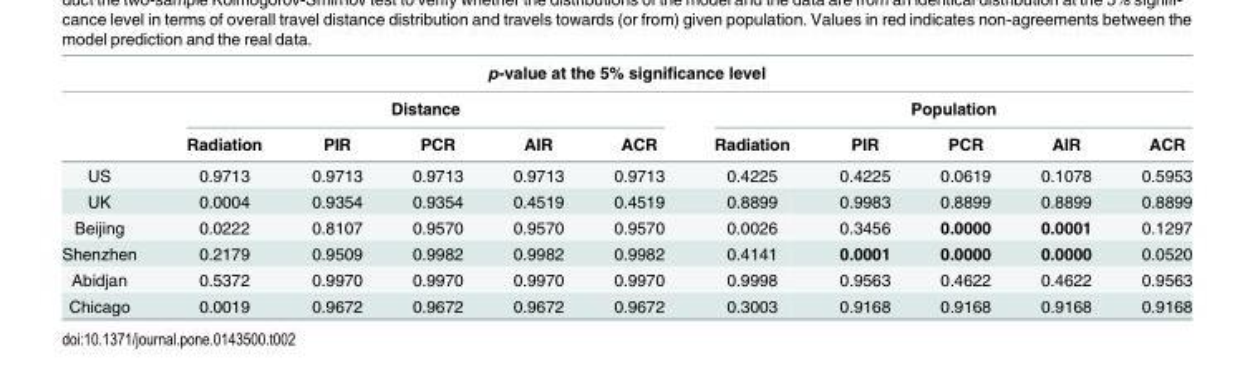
<table><thead><tr><td colspan="11">p-value at the 5% significance level</td></tr><tr><td rowspan="2"></td><td colspan="5">Distance</td><td colspan="5">Population</td></tr><tr><td>Radiation</td><td>PIR</td><td>PCR</td><td>AIR</td><td>ACR</td><td>Radiation</td><td>PIR</td><td>PCR</td><td>AIR</td><td>ACR</td></tr></thead><tbody><tr><td>US</td><td>0.9713</td><td>0.9713</td><td>0.9713</td><td>0.9713</td><td>0.9713</td><td>0.4225</td><td>0.4225</td><td>0.0619</td><td>0.1078</td><td>0.5953</td></tr><tr><td>UK</td><td>0.0004</td><td>0.9354</td><td>0.9354</td><td>0.4519</td><td>0.4519</td><td>0.8899</td><td>0.9983</td><td>0.8899</td><td>0.8899</td><td>0.8899</td></tr><tr><td>Beijing</td><td>0.0222</td><td>0.8107</td><td>0.9570</td><td>0.9570</td><td>0.9570</td><td>0.0026</td><td>0.3456</td><td>0.0000</td><td>0.0001</td><td>0.1297</td></tr><tr><td>Shenzhen</td><td>0.2179</td><td>0.9509</td><td>0.9982</td><td>0.9982</td><td>0.9982</td><td>0.4141</td><td>0.0001</td><td>0.0000</td><td>0.0000</td><td>0.0520</td></tr><tr><td>Abidjan</td><td>0.5372</td><td>0.9970</td><td>0.9970</td><td>0.9970</td><td>0.9970</td><td>0.9998</td><td>0.9563</td><td>0.4622</td><td>0.4622</td><td>0.9563</td></tr><tr><td>Chicago</td><td>0.0019</td><td>0.9672</td><td>0.9672</td><td>0.9672</td><td>0.9672</td><td>0.3003</td><td>0.9168</td><td>0.9168</td><td>0.9168</td><td>0.9168</td></tr></tbody></table>